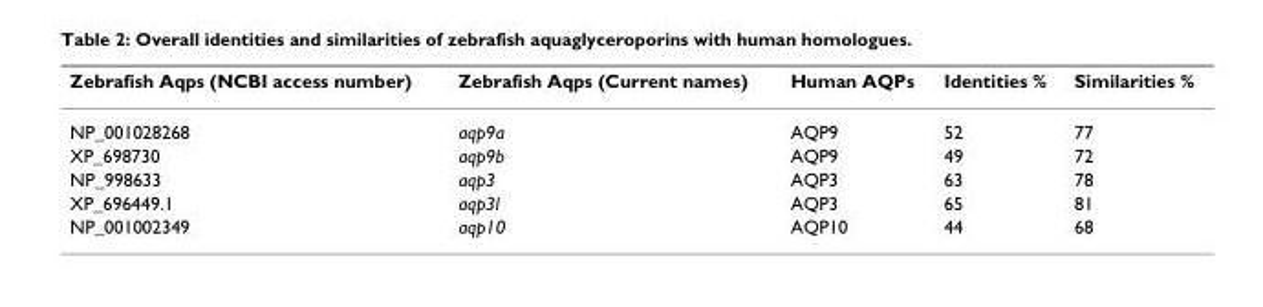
<table><thead><tr><td>Zebrafish Aqps (NCBI access number)</td><td>Zebrafish Aqps (Current names)</td><td>Human AQPs</td><td>Identities %</td><td>Similarities %</td></tr></thead><tbody><tr><td>NP_001028268</td><td>aqp9a</td><td>AQP9</td><td>52</td><td>77</td></tr><tr><td>XP_698730</td><td>aqp9b</td><td>AQP9</td><td>49</td><td>72</td></tr><tr><td>NP_998633</td><td>aqp3</td><td>AQP3</td><td>63</td><td>78</td></tr><tr><td>XP_696449.1</td><td>aqp3l</td><td>AQP3</td><td>65</td><td>81</td></tr><tr><td>NP_001002349</td><td>aqp10</td><td>AQP10</td><td>44</td><td>68</td></tr></tbody></table>